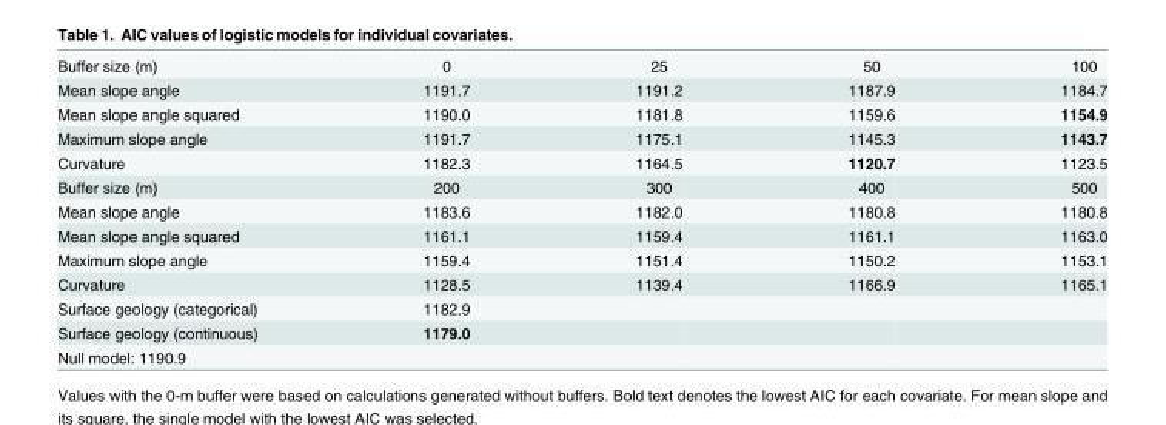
<table><tbody><tr><td>Buffer size (m)</td><td>0</td><td>25</td><td>50</td><td>100</td></tr><tr><td>Mean slope angle</td><td>1191.7</td><td>1191.2</td><td>1187.9</td><td>1184.7</td></tr><tr><td>Mean slope angle squared</td><td>1190.0</td><td>1181.8</td><td>1159.6</td><td>1154.9</td></tr><tr><td>Maximum slope angle</td><td>1191.7</td><td>1175.1</td><td>1145.3</td><td>1143.7</td></tr><tr><td>Curvature</td><td>1182.3</td><td>1164.5</td><td>1120.7</td><td>1123.5</td></tr><tr><td>Buffer size (m)</td><td>200</td><td>300</td><td>400</td><td>500</td></tr><tr><td>Mean slope angle</td><td>1183.6</td><td>1182.0</td><td>1180.8</td><td>1180.8</td></tr><tr><td>Mean slope angle squared</td><td>1161.1</td><td>1159.4</td><td>1161.1</td><td>1163.0</td></tr><tr><td>Maximum slope angle</td><td>1159.4</td><td>1151.4</td><td>1150.2</td><td>1153.1</td></tr><tr><td>Curvature</td><td>1128.5</td><td>1139.4</td><td>1166.9</td><td>1165.1</td></tr><tr><td>Surface geology (categorical)</td><td>1182.9</td><td></td><td></td><td></td></tr><tr><td>Surface geology (continuous)</td><td>1179.0</td><td></td><td></td><td></td></tr><tr><td>Null model: 1190.9</td><td></td><td></td><td></td><td></td></tr></tbody></table>